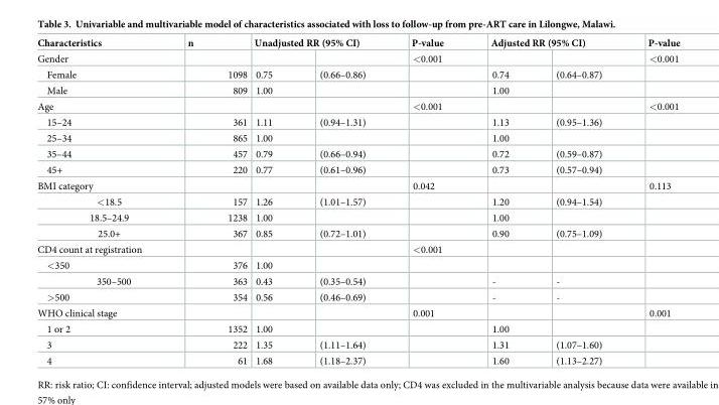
<table><thead><tr><td rowspan="2">Characteristics Gender</td><td rowspan="2">n</td><td colspan="2">Unadjusted RR (95% CI)</td><td rowspan="2">P-value &lt;0.001</td><td colspan="2">Adjusted RR (95% CI)</td><td rowspan="2">P-value &lt;0.001</td></tr><tr><td></td><td></td><td></td><td></td></tr></thead><tbody><tr><td>Female</td><td>1098</td><td>0.75</td><td>(0.66–0.86)</td><td></td><td>0.74</td><td>(0.64–0.87)</td><td></td></tr><tr><td>Male</td><td>809</td><td>1.00</td><td></td><td></td><td>1.00</td><td></td><td></td></tr><tr><td>Age</td><td></td><td></td><td></td><td>&lt;0.001</td><td></td><td></td><td>&lt;0.001</td></tr><tr><td>15–24</td><td>361</td><td>1.11</td><td>(0.94–1.31)</td><td></td><td>1.13</td><td>(0.95–1.36)</td><td></td></tr><tr><td>25–34</td><td>865</td><td>1.00</td><td></td><td></td><td>1.00</td><td></td><td></td></tr><tr><td>35–44</td><td>457</td><td>0.79</td><td>(0.66–0.94)</td><td></td><td>0.72</td><td>(0.59–0.87)</td><td></td></tr><tr><td>45+</td><td>220</td><td>0.77</td><td>(0.61–0.96)</td><td></td><td>0.73</td><td>(0.57–0.94)</td><td></td></tr><tr><td>BMI category</td><td></td><td></td><td></td><td>0.042</td><td></td><td></td><td>0.113</td></tr><tr><td>&lt;18.5</td><td>157</td><td>1.26</td><td>(1.01–1.57)</td><td></td><td>1.20</td><td>(0.94–1.54)</td><td></td></tr><tr><td>18.5–24.9</td><td>1238</td><td>1.00</td><td></td><td></td><td>1.00</td><td></td><td></td></tr><tr><td>25.0+</td><td>367</td><td>0.85</td><td>(0.72–1.01)</td><td></td><td>0.90</td><td>(0.75–1.09)</td><td></td></tr><tr><td>CD4 count at registration</td><td></td><td></td><td></td><td>&lt;0.001</td><td></td><td></td><td></td></tr><tr><td>&lt;350</td><td>376</td><td>1.00</td><td></td><td></td><td></td><td></td><td></td></tr><tr><td>350–500</td><td>363</td><td>0.43</td><td>(0.35–0.54)</td><td></td><td>-</td><td>-</td><td></td></tr><tr><td>&gt;500</td><td>354</td><td>0.56</td><td>(0.46–0.69)</td><td></td><td>-</td><td>-</td><td></td></tr><tr><td>WHO clinical stage</td><td></td><td></td><td></td><td>0.001</td><td></td><td></td><td>0.001</td></tr><tr><td>1 or 2</td><td>1352</td><td>1.00</td><td></td><td></td><td>1.00</td><td></td><td></td></tr><tr><td>3</td><td>222</td><td>1.35</td><td>(1.11–1.64)</td><td></td><td>1.31</td><td>(1.07–1.60)</td><td></td></tr><tr><td>4</td><td>61</td><td>1.68</td><td>(1.18–2.37)</td><td></td><td>1.60</td><td>(1.13–2.27)</td><td></td></tr></tbody></table>